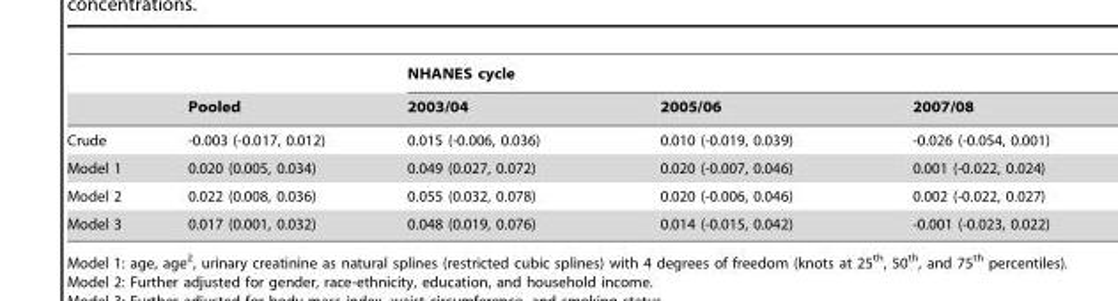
<table><thead><tr><td rowspan="2"></td><td rowspan="2">Pooled</td><td colspan="3">NHANES cycle</td></tr><tr><td>2003/04</td><td>2005/06</td><td>2007/08</td></tr></thead><tbody><tr><td>Crude</td><td>-0.003 (-0.017, 0.012)</td><td>0.015 (-0.006, 0.036)</td><td>0.010 (-0.019, 0.039)</td><td>-0.026 (-0.054, 0.001)</td></tr><tr><td>Model 1</td><td>0.020 (0.005, 0.034)</td><td>0.049 (0.027, 0.072)</td><td>0.020 (-0.007, 0.046)</td><td>0.001 (-0.022, 0.024)</td></tr><tr><td>Model 2</td><td>0.022 (0.008, 0.036)</td><td>0.055 (0.032, 0.078)</td><td>0.020 (-0.006, 0.046)</td><td>0.002 (-0.022, 0.027)</td></tr><tr><td>Model 3</td><td>0.017 (0.001, 0.032)</td><td>0.048 (0.019, 0.076)</td><td>0.014 (-0.015, 0.042)</td><td>-0.001 (-0.023, 0.022)</td></tr></tbody></table>